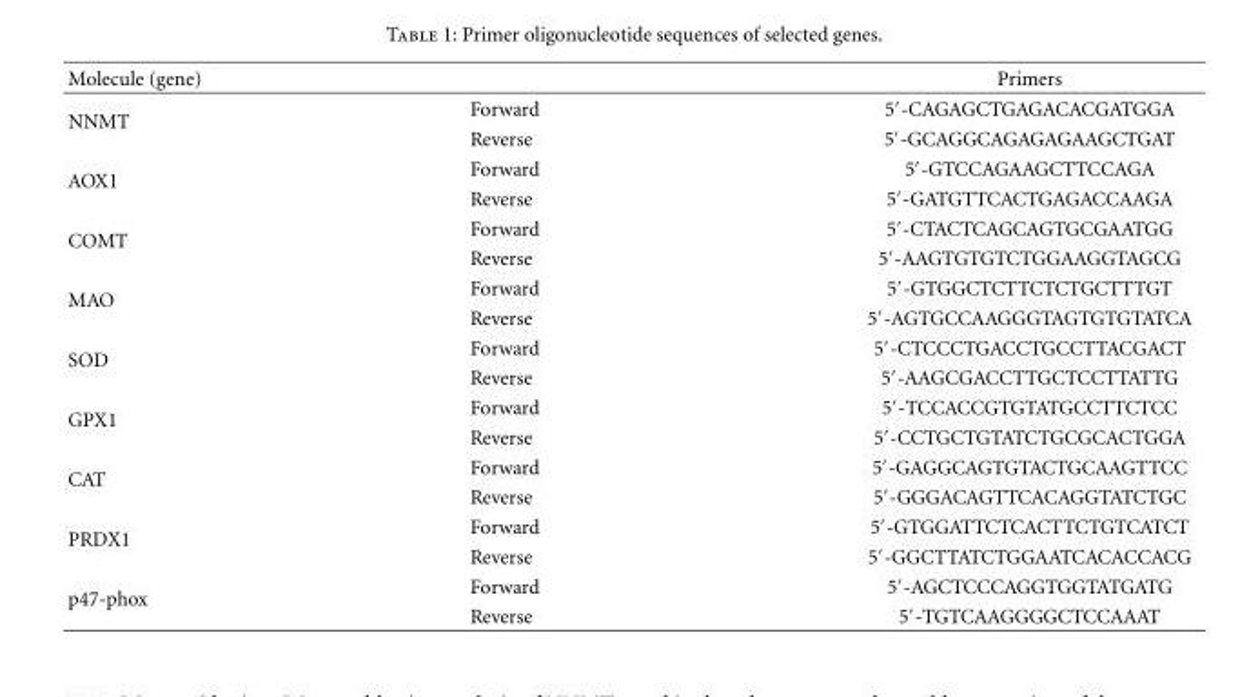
<table><thead><tr><td>Molecule (gene)</td><td></td><td>Primers</td></tr></thead><tbody><tr><td rowspan="2">NNMT</td><td>Forward</td><td>5<sup>′</sup>-CAGAGCTGAGACACGATGGA</td></tr><tr><td>Reverse</td><td>5<sup>′</sup>-GCAGGCAGAGAGAAGCTGAT</td></tr><tr><td rowspan="2">AOX1</td><td>Forward</td><td>5<sup>′</sup>-GTCCAGAAGCTTCCAGA</td></tr><tr><td>Reverse</td><td>5<sup>′</sup>-GATGTTCACTGAGACCAAGA</td></tr><tr><td rowspan="2">COMT</td><td>Forward</td><td>5<sup>′</sup>-CTACTCAGCAGTGCGAATGG</td></tr><tr><td>Reverse</td><td>5<sup>′</sup>-AAGTGTGTCTGGAAGGTAGCG</td></tr><tr><td rowspan="2">MAO</td><td>Forward</td><td>5<sup>′</sup>-GTGGCTCTTCTCTGCTTTGT</td></tr><tr><td>Reverse</td><td>5<sup>′</sup>-AGTGCCAAGGGTAGTGTGTATCA</td></tr><tr><td rowspan="2">SOD</td><td>Forward</td><td>5<sup>′</sup>-CTCCCTGACCTGCCTTACGACT</td></tr><tr><td>Reverse</td><td>5<sup>′</sup>-AAGCGACCTTGCTCCTTATTG</td></tr><tr><td rowspan="2">GPX1</td><td>Forward</td><td>5<sup>′</sup>-TCCACCGTGTATGCCTTCTCC</td></tr><tr><td>Reverse</td><td>5<sup>′</sup>-CCTGCTGTATCTGCGCACTGGA</td></tr><tr><td rowspan="2">CAT</td><td>Forward</td><td>5<sup>′</sup>-GAGGCAGTGTACTGCAAGTTCC</td></tr><tr><td>Reverse</td><td>5<sup>′</sup>-GGGACAGTTCACAGGTATCTGC</td></tr><tr><td rowspan="2">PRDX1</td><td>Forward</td><td>5<sup>′</sup>-GTGGATTCTCACTTCTGTCATCT</td></tr><tr><td>Reverse</td><td>5<sup>′</sup>-GGCTTATCTGGAATCACACCACG</td></tr><tr><td rowspan="2">p47-phox</td><td>Forward</td><td>5<sup>′</sup>-AGCTCCCAGGTGGTATGATG</td></tr><tr><td>Reverse</td><td>5<sup>′</sup>-TGTCAAGGGGCTCCAAAT</td></tr></tbody></table>